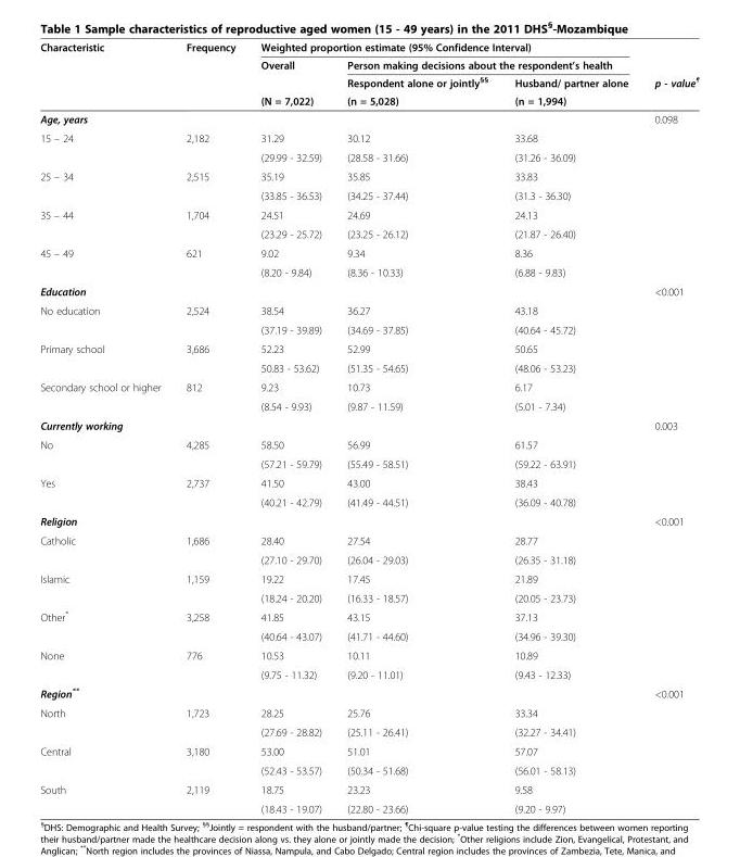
<table><thead><tr><td rowspan="4">Characteristic</td><td rowspan="4">Frequency</td><td colspan="3">Weighted proportion estimate (95% Confidence Interval)</td><td rowspan="4">p - value<sup>¶</sup></td></tr><tr><td rowspan="3">Overall (N = 7,022)</td><td colspan="2">Person making decisions about the respondent’s health</td></tr><tr><td rowspan="2">Respondent alone or jointly<sup>§§</sup> (n = 5,028)</td><td rowspan="2">Husband/ partner alone (n = 1,994)</td></tr><tr></tr></thead><tbody><tr><td>Age, years</td><td></td><td></td><td></td><td></td><td>0.098</td></tr><tr><td rowspan="2">15 – 24</td><td rowspan="2">2,182</td><td>31.29</td><td>30.12</td><td>33.68</td><td rowspan="2"></td></tr><tr><td>(29.99 - 32.59)</td><td>(28.58 - 31.66)</td><td>(31.26 - 36.09)</td></tr><tr><td rowspan="2">25 – 34</td><td rowspan="2">2,515</td><td>35.19</td><td>35.85</td><td>33.83</td><td rowspan="2"></td></tr><tr><td>(33.85 - 36.53)</td><td>(34.25 - 37.44)</td><td>(31.3 - 36.30)</td></tr><tr><td rowspan="2">35 – 44</td><td rowspan="2">1,704</td><td>24.51</td><td>24.69</td><td>24.13</td><td rowspan="2"></td></tr><tr><td>(23.29 - 25.72)</td><td>(23.25 - 26.12)</td><td>(21.87 - 26.40)</td></tr><tr><td rowspan="2">45 – 49</td><td rowspan="2">621</td><td>9.02</td><td>9.34</td><td>8.36</td><td rowspan="2"></td></tr><tr><td>(8.20 - 9.84)</td><td>(8.36 - 10.33)</td><td>(6.88 - 9.83)</td></tr><tr><td>Education</td><td></td><td></td><td></td><td></td><td>&lt;0.001</td></tr><tr><td rowspan="2">No education</td><td rowspan="2">2,524</td><td>38.54</td><td>36.27</td><td>43.18</td><td rowspan="2"></td></tr><tr><td>(37.19 - 39.89)</td><td>(34.69 - 37.85)</td><td>(40.64 - 45.72)</td></tr><tr><td rowspan="2">Primary school</td><td rowspan="2">3,686</td><td>52.23</td><td>52.99</td><td>50.65</td><td rowspan="2"></td></tr><tr><td>50.83 - 53.62)</td><td>(51.35 - 54.65)</td><td>(48.06 - 53.23)</td></tr><tr><td rowspan="2">Secondary school or higher</td><td rowspan="2">812</td><td>9.23</td><td>10.73</td><td>6.17</td><td rowspan="2"></td></tr><tr><td>(8.54 - 9.93)</td><td>(9.87 - 11.59)</td><td>(5.01 - 7.34)</td></tr><tr><td>Currently working</td><td></td><td></td><td></td><td></td><td>0.003</td></tr><tr><td rowspan="2">No</td><td rowspan="2">4,285</td><td>58.50</td><td>56.99</td><td>61.57</td><td rowspan="2"></td></tr><tr><td>(57.21 - 59.79)</td><td>(55.49 - 58.51)</td><td>(59.22 - 63.91)</td></tr><tr><td rowspan="2">Yes</td><td rowspan="2">2,737</td><td>41.50</td><td>43.00</td><td>38.43</td><td rowspan="2"></td></tr><tr><td>(40.21 - 42.79)</td><td>(41.49 - 44.51)</td><td>(36.09 - 40.78)</td></tr><tr><td>Religion</td><td></td><td></td><td></td><td></td><td>&lt;0.001</td></tr><tr><td rowspan="2">Catholic</td><td rowspan="2">1,686</td><td>28.40</td><td>27.54</td><td>28.77</td><td rowspan="2"></td></tr><tr><td>(27.10 - 29.70)</td><td>(26.04 - 29.03)</td><td>(26.35 - 31.18)</td></tr><tr><td rowspan="2">Islamic</td><td rowspan="2">1,159</td><td>19.22</td><td>17.45</td><td>21.89</td><td rowspan="2"></td></tr><tr><td>(18.24 - 20.20)</td><td>(16.33 - 18.57)</td><td>(20.05 - 23.73)</td></tr><tr><td rowspan="2">Other*</td><td rowspan="2">3,258</td><td>41.85</td><td>43.15</td><td>37.13</td><td rowspan="2"></td></tr><tr><td>(40.64 - 43.07)</td><td>(41.71 - 44.60)</td><td>(34.96 - 39.30)</td></tr><tr><td rowspan="2">None</td><td rowspan="2">776</td><td>10.53</td><td>10.11</td><td>10.89</td><td rowspan="2"></td></tr><tr><td>(9.75 - 11.32)</td><td>(9.20 - 11.01)</td><td>(9.43 - 12.33)</td></tr><tr><td>Region**</td><td></td><td></td><td></td><td></td><td>&lt;0.001</td></tr><tr><td rowspan="2">North</td><td rowspan="2">1,723</td><td>28.25</td><td>25.76</td><td>33.34</td><td rowspan="2"></td></tr><tr><td>(27.69 - 28.82)</td><td>(25.11 - 26.41)</td><td>(32.27 - 34.41)</td></tr><tr><td rowspan="2">Central</td><td rowspan="2">3,180</td><td>53.00</td><td>51.01</td><td>57.07</td><td rowspan="2"></td></tr><tr><td>(52.43 - 53.57)</td><td>(50.34 - 51.68)</td><td>(56.01 - 58.13)</td></tr><tr><td rowspan="2">South</td><td rowspan="2">2,119</td><td>18.75</td><td>23.23</td><td>9.58</td><td rowspan="2"></td></tr><tr><td>(18.43 - 19.07)</td><td>(22.80 - 23.66)</td><td>(9.20 - 9.97)</td></tr></tbody></table>